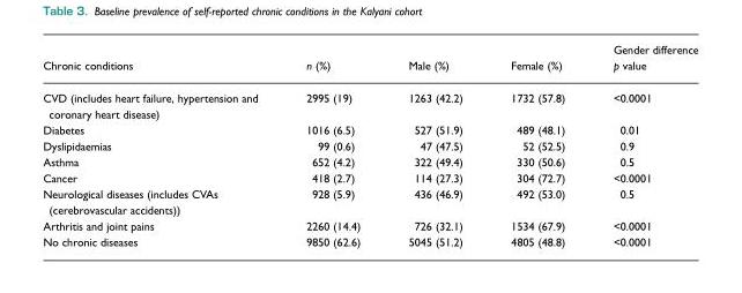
<table><thead><tr><td>Chronic conditions</td><td>n (%)</td><td>Male (%)</td><td>Female (%)</td><td>Gender difference p value</td></tr></thead><tbody><tr><td>CVD (includes heart failure, hypertension and coronary heart disease)</td><td>2995 (19)</td><td>1263 (42.2)</td><td>1732 (57.8)</td><td>&lt;0.0001</td></tr><tr><td>Diabetes</td><td>1016 (6.5)</td><td>527 (51.9)</td><td>489 (48.1)</td><td>0.01</td></tr><tr><td>Dyslipidaemias</td><td>99 (0.6)</td><td>47 (47.5)</td><td>52 (52.5)</td><td>0.9</td></tr><tr><td>Asthma</td><td>652 (4.2)</td><td>322 (49.4)</td><td>330 (50.6)</td><td>0.5</td></tr><tr><td>Cancer</td><td>418 (2.7)</td><td>114 (27.3)</td><td>304 (72.7)</td><td>&lt;0.0001</td></tr><tr><td>Neurological diseases (includes CVAs (cerebrovascular accidents))</td><td>928 (5.9)</td><td>436 (46.9)</td><td>492 (53.0)</td><td>0.5</td></tr><tr><td>Arthritis and joint pains</td><td>2260 (14.4)</td><td>726 (32.1)</td><td>1534 (67.9)</td><td>&lt;0.0001</td></tr><tr><td>No chronic diseases</td><td>9850 (62.6)</td><td>5045 (51.2)</td><td>4805 (48.8)</td><td>&lt;0.0001</td></tr></tbody></table>